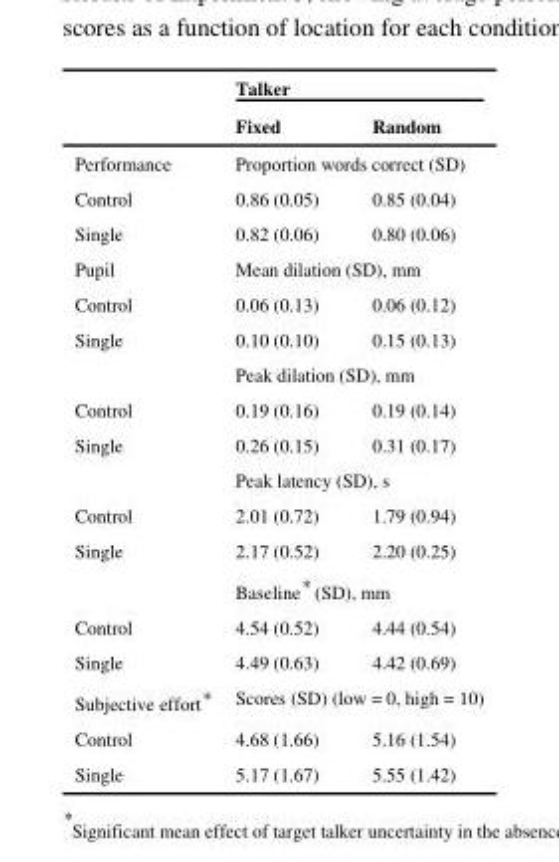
<table><thead><tr><td rowspan="2"></td><td colspan="2">Talker</td></tr><tr><td>Fixed</td><td>Random</td></tr></thead><tbody><tr><td>Performance</td><td colspan="2">Proportion words correct (SD)</td></tr><tr><td>Control</td><td>0.86 (0.05)</td><td>0.85 (0.04)</td></tr><tr><td>Single</td><td>0.82 (0.06)</td><td>0.80 (0.06)</td></tr><tr><td>Pupil</td><td colspan="2">Mean dilation (SD), mm</td></tr><tr><td>Control</td><td>0.06 (0.13)</td><td>0.06 (0.12)</td></tr><tr><td rowspan="2">Single</td><td>0.10 (0.10)</td><td>0.15 (0.13)</td></tr><tr><td colspan="2">Peak dilation (SD), mm</td></tr><tr><td>Control</td><td>0.19 (0.16)</td><td>0.19 (0.14)</td></tr><tr><td rowspan="2">Single</td><td>0.26 (0.15)</td><td>0.31 (0.17)</td></tr><tr><td colspan="2">Peak latency (SD), s</td></tr><tr><td>Control</td><td>2.01 (0.72)</td><td>1.79 (0.94)</td></tr><tr><td rowspan="2">Single</td><td>2.17 (0.52)</td><td>2.20 (0.25)</td></tr><tr><td colspan="2">Baseline* (SD), mm</td></tr><tr><td>Control</td><td>4.54 (0.52)</td><td>4.44 (0.54)</td></tr><tr><td>Single</td><td>4.49 (0.63)</td><td>4.42 (0.69)</td></tr><tr><td>Subjective effort*</td><td colspan="2">Scores (SD) (low = 0, high = 10)</td></tr><tr><td>Control</td><td>4.68 (1.66)</td><td>5.16 (1.54)</td></tr><tr><td>Single</td><td>5.17 (1.67)</td><td>5.55 (1.42)</td></tr></tbody></table>